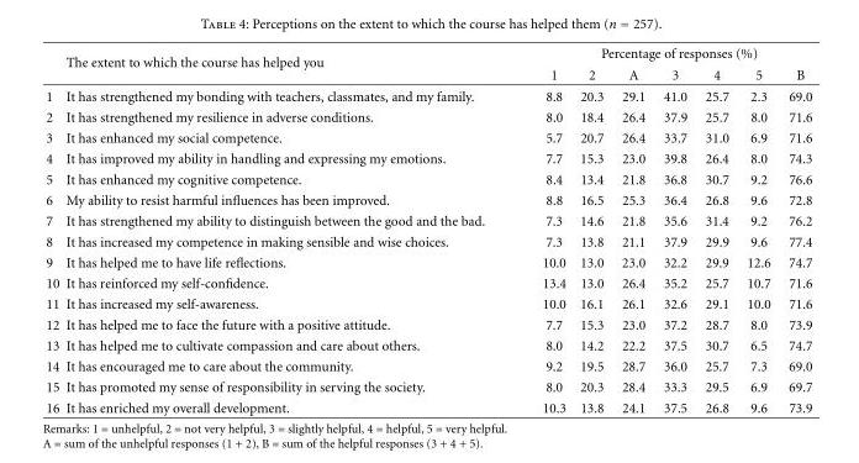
<table><thead><tr><td rowspan="2"></td><td rowspan="2">The extent to which the course has helped you</td><td colspan="7">Percentage of responses (%)</td></tr><tr><td>1</td><td>2</td><td>A</td><td>3</td><td>4</td><td>5</td><td>B</td></tr></thead><tbody><tr><td>1</td><td>It has strengthened my bonding with teachers, classmates, and my family.</td><td>8.8</td><td>20.3</td><td>29.1</td><td>41.0</td><td>25.7</td><td>2.3</td><td>69.0</td></tr><tr><td>2</td><td>It has strengthened my resilience in adverse conditions.</td><td>8.0</td><td>18.4</td><td>26.4</td><td>37.9</td><td>25.7</td><td>8.0</td><td>71.6</td></tr><tr><td>3</td><td>It has enhanced my social competence.</td><td>5.7</td><td>20.7</td><td>26.4</td><td>33.7</td><td>31.0</td><td>6.9</td><td>71.6</td></tr><tr><td>4</td><td>It has improved my ability in handling and expressing my emotions.</td><td>7.7</td><td>15.3</td><td>23.0</td><td>39.8</td><td>26.4</td><td>8.0</td><td>74.3</td></tr><tr><td>5</td><td>It has enhanced my cognitive competence.</td><td>8.4</td><td>13.4</td><td>21.8</td><td>36.8</td><td>30.7</td><td>9.2</td><td>76.6</td></tr><tr><td>6</td><td>My ability to resist harmful influences has been improved.</td><td>8.8</td><td>16.5</td><td>25.3</td><td>36.4</td><td>26.8</td><td>9.6</td><td>72.8</td></tr><tr><td>7</td><td>It has strengthened my ability to distinguish between the good and the bad.</td><td>7.3</td><td>14.6</td><td>21.8</td><td>35.6</td><td>31.4</td><td>9.2</td><td>76.2</td></tr><tr><td>8</td><td>It has increased my competence in making sensible and wise choices.</td><td>7.3</td><td>13.8</td><td>21.1</td><td>37.9</td><td>29.9</td><td>9.6</td><td>77.4</td></tr><tr><td>9</td><td>It has helped me to have life reflections.</td><td>10.0</td><td>13.0</td><td>23.0</td><td>32.2</td><td>29.9</td><td>12.6</td><td>74.7</td></tr><tr><td>10</td><td>It has reinforced my self-confidence.</td><td>13.4</td><td>13.0</td><td>26.4</td><td>35.2</td><td>25.7</td><td>10.7</td><td>71.6</td></tr><tr><td>11</td><td>It has increased my self-awareness.</td><td>10.0</td><td>16.1</td><td>26.1</td><td>32.6</td><td>29.1</td><td>10.0</td><td>71.6</td></tr><tr><td>12</td><td>It has helped me to face the future with a positive attitude.</td><td>7.7</td><td>15.3</td><td>23.0</td><td>37.2</td><td>28.7</td><td>8.0</td><td>73.9</td></tr><tr><td>13</td><td>It has helped me to cultivate compassion and care about others.</td><td>8.0</td><td>14.2</td><td>22.2</td><td>37.5</td><td>30.7</td><td>6.5</td><td>74.7</td></tr><tr><td>14</td><td>It has encouraged me to care about the community.</td><td>9.2</td><td>19.5</td><td>28.7</td><td>36.0</td><td>25.7</td><td>7.3</td><td>69.0</td></tr><tr><td>15</td><td>It has promoted my sense of responsibility in serving the society.</td><td>8.0</td><td>20.3</td><td>28.4</td><td>33.3</td><td>29.5</td><td>6.9</td><td>69.7</td></tr><tr><td>16</td><td>It has enriched my overall development.</td><td>10.3</td><td>13.8</td><td>24.1</td><td>37.5</td><td>26.8</td><td>9.6</td><td>73.9</td></tr></tbody></table>